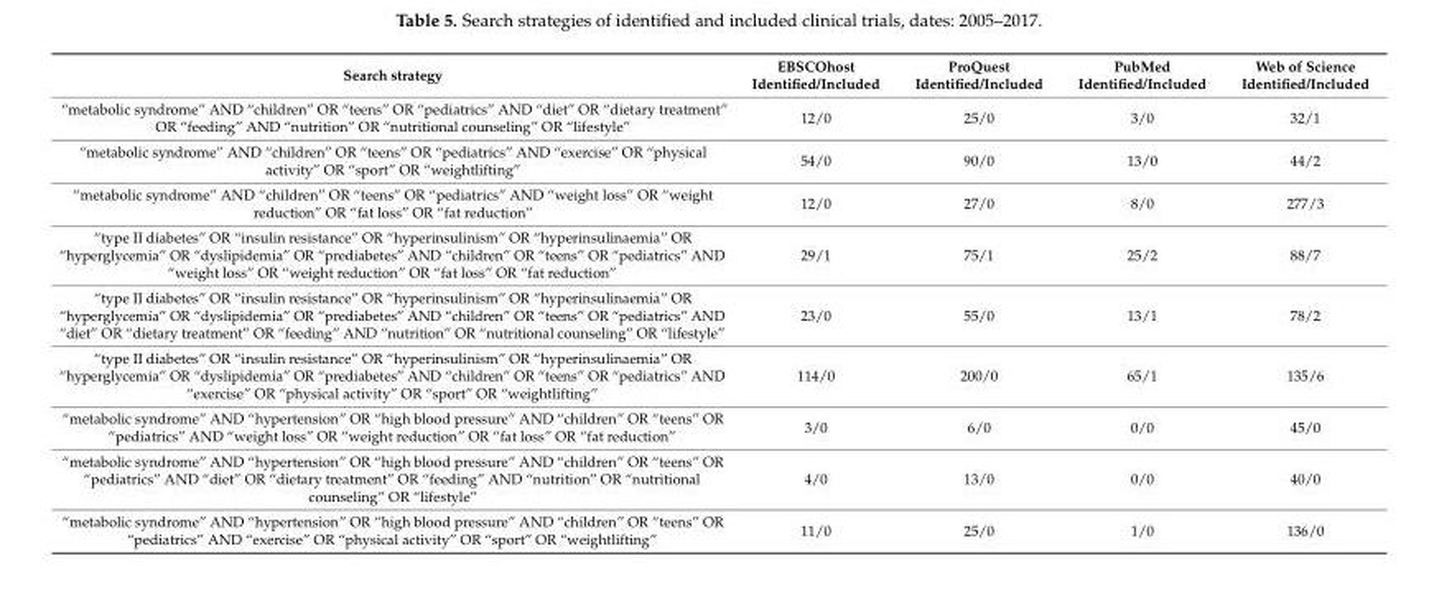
<table><thead><tr><td>Search strategy</td><td>EBSCOhost Identified/Included</td><td>ProQuest Identified/Included</td><td>PubMed Identified/Included</td><td>Web of Science Identified/Included</td></tr></thead><tbody><tr><td>“metabolic syndrome” AND “children” OR “teens” OR “pediatrics” AND “diet” OR “dietary treatment” OR “feeding” AND “nutrition” OR “nutritional counseling” OR “lifestyle”</td><td>12/0</td><td>25/0</td><td>3/0</td><td>32/1</td></tr><tr><td>“metabolic syndrome” AND “children” OR “teens” OR “pediatrics” AND “exercise” OR “physical activity” OR “sport” OR “weightlifting”</td><td>54/0</td><td>90/0</td><td>13/0</td><td>44/2</td></tr><tr><td>“metabolic syndrome” AND “children” OR “teens” OR “pediatrics” AND “weight loss” OR “weight reduction” OR “fat loss” OR “fat reduction”</td><td>12/0</td><td>27/0</td><td>8/0</td><td>277/3</td></tr><tr><td>“type II diabetes” OR “insulin resistance” OR “hyperinsulinism” OR “hyperinsulinaemia” OR “hyperglycemia” OR “dyslipidemia” OR “prediabetes” AND “children” OR “teens” OR “pediatrics” AND “weight loss” OR “weight reduction” OR “fat loss” OR “fat reduction”</td><td>29/1</td><td>75/1</td><td>25/2</td><td>88/7</td></tr><tr><td>“type II diabetes” OR “insulin resistance” OR “hyperinsulinism” OR “hyperinsulinaemia” OR “hyperglycemia” OR “dyslipidemia” OR “prediabetes” AND “children” OR “teens” OR “pediatrics” AND “diet” OR “dietary treatment” OR “feeding” AND “nutrition” OR “nutritional counseling” OR “lifestyle”</td><td>23/0</td><td>55/0</td><td>13/1</td><td>78/2</td></tr><tr><td>“type II diabetes” OR “insulin resistance” OR “hyperinsulinism” OR “hyperinsulinaemia” OR “hyperglycemia” OR “dyslipidemia” OR “prediabetes” AND “children” OR “teens” OR “pediatrics” AND “exercise” OR “physical activity” OR “sport” OR “weightlifting”</td><td>114/0</td><td>200/0</td><td>65/1</td><td>135/6</td></tr><tr><td>“metabolic syndrome” AND “hypertension” OR “high blood pressure” AND “children” OR “teens” OR “pediatrics” AND “weight loss” OR “weight reduction” OR “fat loss” OR “fat reduction”</td><td>3/0</td><td>6/0</td><td>0/0</td><td>45/0</td></tr><tr><td>“metabolic syndrome” AND “hypertension” OR “high blood pressure” AND “children” OR “teens” OR “pediatrics” AND “diet” OR “dietary treatment” OR “feeding” AND “nutrition” OR “nutritional counseling” OR “lifestyle”</td><td>4/0</td><td>13/0</td><td>0/0</td><td>40/0</td></tr><tr><td>“metabolic syndrome” AND “hypertension” OR “high blood pressure” AND “children” OR “teens” OR “pediatrics” AND “exercise” OR “physical activity” OR “sport” OR “weightlifting”</td><td>11/0</td><td>25/0</td><td>1/0</td><td>136/0</td></tr></tbody></table>